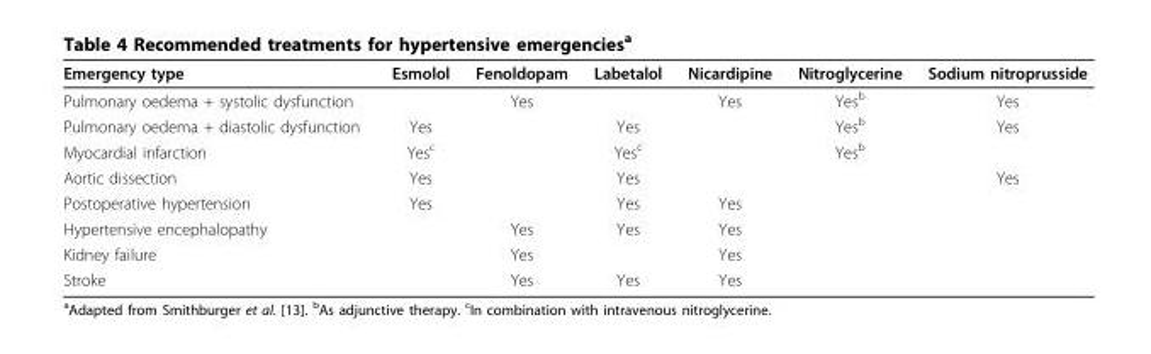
<table><thead><tr><td>Emergency type</td><td>Esmolol</td><td>Fenoldopam</td><td>Labetalol</td><td>Nicardipine</td><td>Nitroglycerine</td><td>Sodium nitroprusside</td></tr></thead><tbody><tr><td>Pulmonary oedema + systolic dysfunction</td><td></td><td>Yes</td><td></td><td>Yes</td><td>Yes<sup>b</sup></td><td>Yes</td></tr><tr><td>Pulmonary oedema + diastolic dysfunction</td><td>Yes</td><td></td><td>Yes</td><td></td><td>Yes<sup>b</sup></td><td>Yes</td></tr><tr><td>Myocardial infarction</td><td>Yes<sup>c</sup></td><td></td><td>Yes<sup>c</sup></td><td></td><td>Yes<sup>b</sup></td><td></td></tr><tr><td>Aortic dissection</td><td>Yes</td><td></td><td>Yes</td><td></td><td></td><td>Yes</td></tr><tr><td>Postoperative hypertension</td><td>Yes</td><td></td><td>Yes</td><td>Yes</td><td></td><td></td></tr><tr><td>Hypertensive encephalopathy</td><td></td><td>Yes</td><td>Yes</td><td>Yes</td><td></td><td></td></tr><tr><td>Kidney failure</td><td></td><td>Yes</td><td></td><td>Yes</td><td></td><td></td></tr><tr><td>Stroke</td><td></td><td>Yes</td><td>Yes</td><td>Yes</td><td></td><td></td></tr></tbody></table>